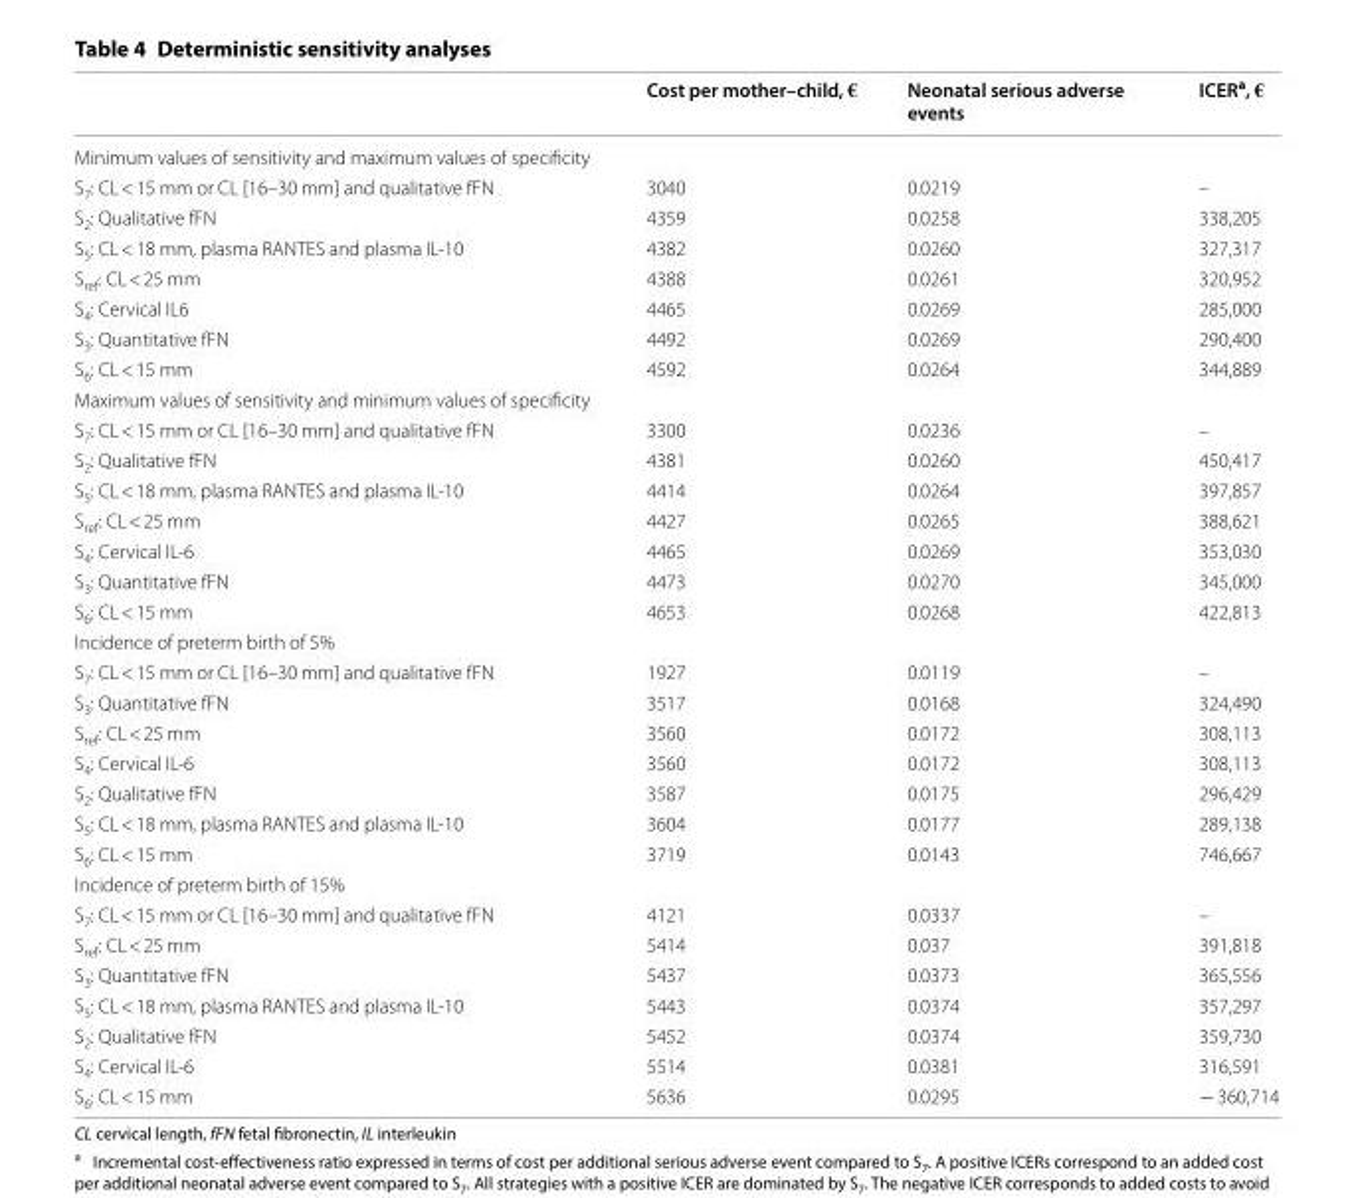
<table><thead><tr><td></td><td>Cost per mother–child, €</td><td>Neonatal serious adverse events</td><td>ICER<sup>a</sup>, €</td></tr></thead><tbody><tr><td colspan="4">Minimum values of sensitivity and maximum values of specificity</td></tr><tr><td>S<sub>7</sub>: CL &lt; 15 mm or CL [16–30 mm] and qualitative fFN</td><td>3040</td><td>0.0219</td><td>–</td></tr><tr><td>S<sub>2</sub>: Qualitative fFN</td><td>4359</td><td>0.0258</td><td>338,205</td></tr><tr><td>S<sub>5</sub>: CL &lt; 18 mm, plasma RANTES and plasma IL-10</td><td>4382</td><td>0.0260</td><td>327,317</td></tr><tr><td>S<sub>ref</sub>: CL &lt; 25 mm</td><td>4388</td><td>0.0261</td><td>320,952</td></tr><tr><td>S<sub>4</sub>: Cervical IL6</td><td>4465</td><td>0.0269</td><td>285,000</td></tr><tr><td>S<sub>3</sub>: Quantitative fFN</td><td>4492</td><td>0.0269</td><td>290,400</td></tr><tr><td>S<sub>6</sub>: CL &lt; 15 mm</td><td>4592</td><td>0.0264</td><td>344,889</td></tr><tr><td colspan="4">Maximum values of sensitivity and minimum values of specificity</td></tr><tr><td>S<sub>7</sub>: CL &lt; 15 mm or CL [16–30 mm] and qualitative fFN</td><td>3300</td><td>0.0236</td><td>–</td></tr><tr><td>S<sub>2</sub>: Qualitative fFN</td><td>4381</td><td>0.0260</td><td>450,417</td></tr><tr><td>S<sub>5</sub>: CL &lt; 18 mm, plasma RANTES and plasma IL-10</td><td>4414</td><td>0.0264</td><td>397,857</td></tr><tr><td>S<sub>ref</sub>: CL &lt; 25 mm</td><td>4427</td><td>0.0265</td><td>388,621</td></tr><tr><td>S<sub>4</sub>: Cervical IL-6</td><td>4465</td><td>0.0269</td><td>353,030</td></tr><tr><td>S<sub>3</sub>: Quantitative fFN</td><td>4473</td><td>0.0270</td><td>345,000</td></tr><tr><td>S<sub>6</sub>: CL &lt; 15 mm</td><td>4653</td><td>0.0268</td><td>422,813</td></tr><tr><td colspan="4">Incidence of preterm birth of 5%</td></tr><tr><td>S<sub>7</sub>: CL &lt; 15 mm or CL [16–30 mm] and qualitative fFN</td><td>1927</td><td>0.0119</td><td>–</td></tr><tr><td>S<sub>3</sub>: Quantitative fFN</td><td>3517</td><td>0.0168</td><td>324,490</td></tr><tr><td>S<sub>ref</sub>: CL &lt; 25 mm</td><td>3560</td><td>0.0172</td><td>308,113</td></tr><tr><td>S<sub>4</sub>: Cervical IL-6</td><td>3560</td><td>0.0172</td><td>308,113</td></tr><tr><td>S<sub>2</sub>: Qualitative fFN</td><td>3587</td><td>0.0175</td><td>296,429</td></tr><tr><td>S<sub>5</sub>: CL &lt; 18 mm, plasma RANTES and plasma IL-10</td><td>3604</td><td>0.0177</td><td>289,138</td></tr><tr><td>S<sub>6</sub>: CL &lt; 15 mm</td><td>3719</td><td>0.0143</td><td>746,667</td></tr><tr><td colspan="4">Incidence of preterm birth of 15%</td></tr><tr><td>S<sub>7</sub>: CL &lt; 15 mm or CL [16–30 mm] and qualitative fFN</td><td>4121</td><td>0.0337</td><td>–</td></tr><tr><td>S<sub>ref</sub>: CL &lt; 25 mm</td><td>5414</td><td>0.037</td><td>391,818</td></tr><tr><td>S<sub>3</sub>: Quantitative fFN</td><td>5437</td><td>0.0373</td><td>365,556</td></tr><tr><td>S<sub>5</sub>: CL &lt; 18 mm, plasma RANTES and plasma IL-10</td><td>5443</td><td>0.0374</td><td>357,297</td></tr><tr><td>S<sub>2</sub>: Qualitative fFN</td><td>5452</td><td>0.0374</td><td>359,730</td></tr><tr><td>S<sub>4</sub>: Cervical IL-6</td><td>5514</td><td>0.0381</td><td>316,591</td></tr><tr><td>S<sub>6</sub>: CL &lt; 15 mm</td><td>5636</td><td>0.0295</td><td>− 360,714</td></tr></tbody></table>